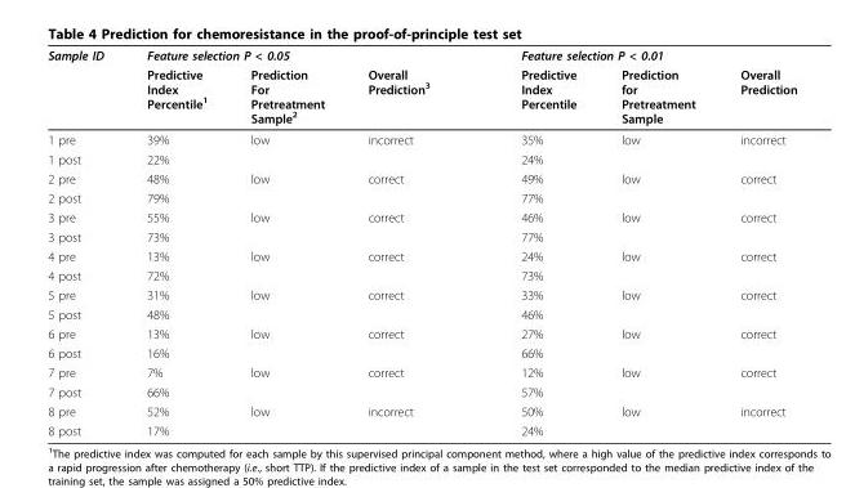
<table><thead><tr><td rowspan="2">Sample ID</td><td colspan="2">Feature selection P &lt; 0.05</td><td rowspan="2">Overall Prediction<sup>3</sup></td><td colspan="2">Feature selection P &lt; 0.01</td><td rowspan="2">Overall Prediction</td></tr><tr><td>Predictive Index Percentile<sup>1</sup></td><td>Prediction For Pretreatment Sample<sup>2</sup></td><td>Predictive Index Percentile</td><td>Prediction for Pretreatment Sample</td></tr></thead><tbody><tr><td>1 pre</td><td>39%</td><td>low</td><td>incorrect</td><td>35%</td><td>low</td><td>incorrect</td></tr><tr><td>1 post</td><td>22%</td><td></td><td></td><td>24%</td><td></td><td></td></tr><tr><td>2 pre</td><td>48%</td><td>low</td><td>correct</td><td>49%</td><td>low</td><td>correct</td></tr><tr><td>2 post</td><td>79%</td><td></td><td></td><td>77%</td><td></td><td></td></tr><tr><td>3 pre</td><td>55%</td><td>low</td><td>correct</td><td>46%</td><td>low</td><td>correct</td></tr><tr><td>3 post</td><td>73%</td><td></td><td></td><td>77%</td><td></td><td></td></tr><tr><td>4 pre</td><td>13%</td><td>low</td><td>correct</td><td>24%</td><td>low</td><td>correct</td></tr><tr><td>4 post</td><td>72%</td><td></td><td></td><td>73%</td><td></td><td></td></tr><tr><td>5 pre</td><td>31%</td><td>low</td><td>correct</td><td>33%</td><td>low</td><td>correct</td></tr><tr><td>5 post</td><td>48%</td><td></td><td></td><td>46%</td><td></td><td></td></tr><tr><td>6 pre</td><td>13%</td><td>low</td><td>correct</td><td>27%</td><td>low</td><td>correct</td></tr><tr><td>6 post</td><td>16%</td><td></td><td></td><td>66%</td><td></td><td></td></tr><tr><td>7 pre</td><td>7%</td><td>low</td><td>correct</td><td>12%</td><td>low</td><td>correct</td></tr><tr><td>7 post</td><td>66%</td><td></td><td></td><td>57%</td><td></td><td></td></tr><tr><td>8 pre</td><td>52%</td><td>low</td><td>incorrect</td><td>50%</td><td>low</td><td>incorrect</td></tr><tr><td>8 post</td><td>17%</td><td></td><td></td><td>24%</td><td></td><td></td></tr></tbody></table>